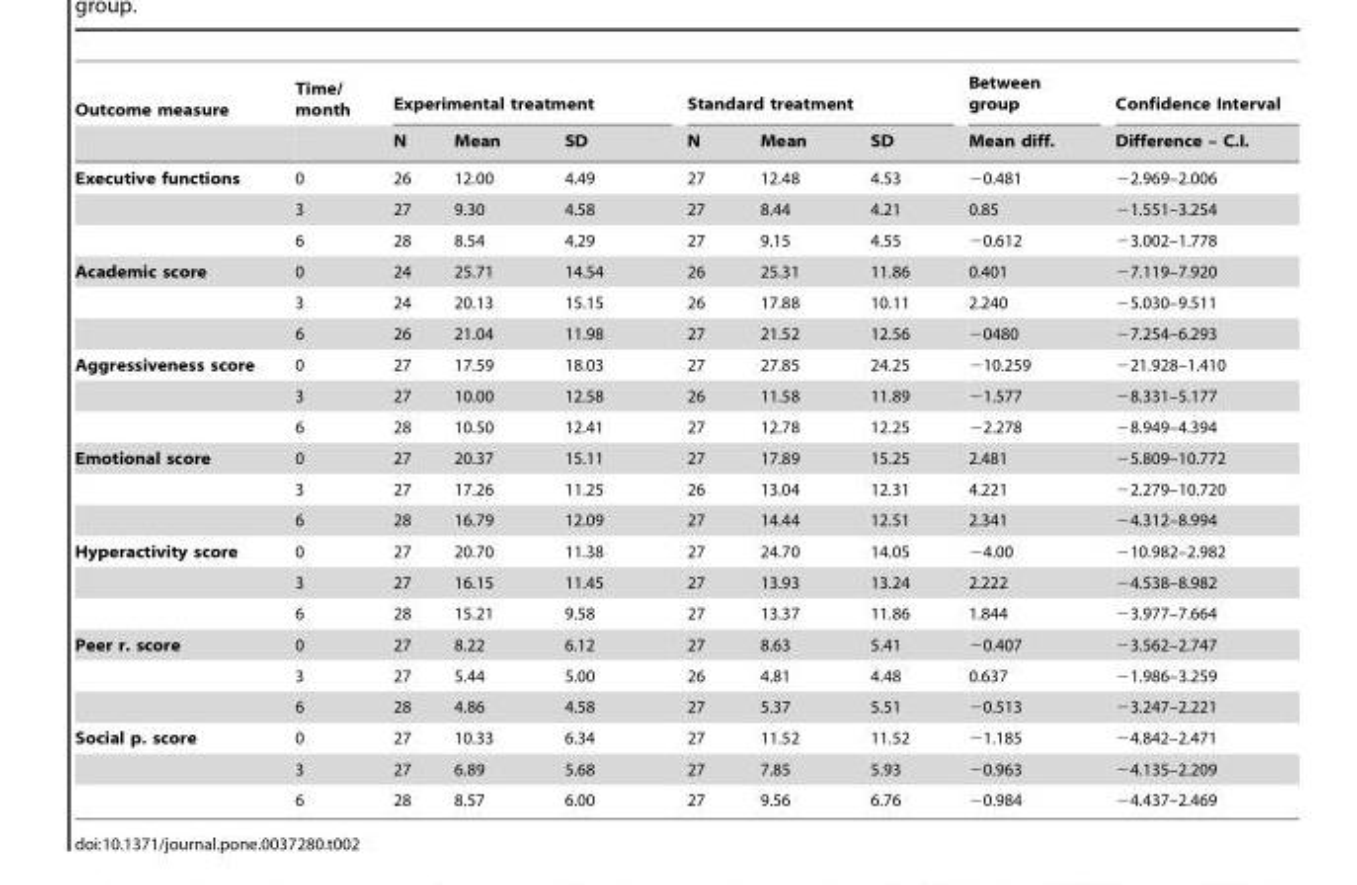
<table><thead><tr><td rowspan="2">Outcome measure</td><td rowspan="2">Time/ month</td><td colspan="3">Experimental treatment</td><td colspan="3">Standard treatment</td><td rowspan="2">Between group Mean diff.</td><td rowspan="2">Confidence Interval Difference – C.I.</td></tr><tr><td>N</td><td>Mean</td><td>SD</td><td>N</td><td>Mean</td><td>SD</td></tr></thead><tbody><tr><td rowspan="3">Executive functions</td><td>0</td><td>26</td><td>12.00</td><td>4.49</td><td>27</td><td>12.48</td><td>4.53</td><td>−0.481</td><td>−2.969–2.006</td></tr><tr><td>3</td><td>27</td><td>9.30</td><td>4.58</td><td>27</td><td>8.44</td><td>4.21</td><td>0.85</td><td>−1.551–3.254</td></tr><tr><td>6</td><td>28</td><td>8.54</td><td>4.29</td><td>27</td><td>9.15</td><td>4.55</td><td>−0.612</td><td>−3.002–1.778</td></tr><tr><td rowspan="3">Academic score</td><td>0</td><td>24</td><td>25.71</td><td>14.54</td><td>26</td><td>25.31</td><td>11.86</td><td>0.401</td><td>−7.119–7.920</td></tr><tr><td>3</td><td>24</td><td>20.13</td><td>15.15</td><td>26</td><td>17.88</td><td>10.11</td><td>2.240</td><td>−5.030–9.511</td></tr><tr><td>6</td><td>26</td><td>21.04</td><td>11.98</td><td>27</td><td>21.52</td><td>12.56</td><td>−0480</td><td>−7.254–6.293</td></tr><tr><td rowspan="3">Aggressiveness score</td><td>0</td><td>27</td><td>17.59</td><td>18.03</td><td>27</td><td>27.85</td><td>24.25</td><td>−10.259</td><td>−21.928–1.410</td></tr><tr><td>3</td><td>27</td><td>10.00</td><td>12.58</td><td>26</td><td>11.58</td><td>11.89</td><td>−1.577</td><td>−8.331–5.177</td></tr><tr><td>6</td><td>28</td><td>10.50</td><td>12.41</td><td>27</td><td>12.78</td><td>12.25</td><td>−2.278</td><td>−8.949–4.394</td></tr><tr><td rowspan="3">Emotional score</td><td>0</td><td>27</td><td>20.37</td><td>15.11</td><td>27</td><td>17.89</td><td>15.25</td><td>2.481</td><td>−5.809–10.772</td></tr><tr><td>3</td><td>27</td><td>17.26</td><td>11.25</td><td>26</td><td>13.04</td><td>12.31</td><td>4.221</td><td>−2.279–10.720</td></tr><tr><td>6</td><td>28</td><td>16.79</td><td>12.09</td><td>27</td><td>14.44</td><td>12.51</td><td>2.341</td><td>−4.312–8.994</td></tr><tr><td rowspan="3">Hyperactivity score</td><td>0</td><td>27</td><td>20.70</td><td>11.38</td><td>27</td><td>24.70</td><td>14.05</td><td>−4.00</td><td>−10.982–2.982</td></tr><tr><td>3</td><td>27</td><td>16.15</td><td>11.45</td><td>27</td><td>13.93</td><td>13.24</td><td>2.222</td><td>−4.538–8.982</td></tr><tr><td>6</td><td>28</td><td>15.21</td><td>9.58</td><td>27</td><td>13.37</td><td>11.86</td><td>1.844</td><td>−3.977–7.664</td></tr><tr><td rowspan="3">Peer r. score</td><td>0</td><td>27</td><td>8.22</td><td>6.12</td><td>27</td><td>8.63</td><td>5.41</td><td>−0.407</td><td>−3.562–2.747</td></tr><tr><td>3</td><td>27</td><td>5.44</td><td>5.00</td><td>26</td><td>4.81</td><td>4.48</td><td>0.637</td><td>−1.986–3.259</td></tr><tr><td>6</td><td>28</td><td>4.86</td><td>4.58</td><td>27</td><td>5.37</td><td>5.51</td><td>−0.513</td><td>−3.247–2.221</td></tr><tr><td rowspan="3">Social p. score</td><td>0</td><td>27</td><td>10.33</td><td>6.34</td><td>27</td><td>11.52</td><td>11.52</td><td>−1.185</td><td>−4.842–2.471</td></tr><tr><td>3</td><td>27</td><td>6.89</td><td>5.68</td><td>27</td><td>7.85</td><td>5.93</td><td>−0.963</td><td>−4.135–2.209</td></tr><tr><td>6</td><td>28</td><td>8.57</td><td>6.00</td><td>27</td><td>9.56</td><td>6.76</td><td>−0.984</td><td>−4.437–2.469</td></tr></tbody></table>